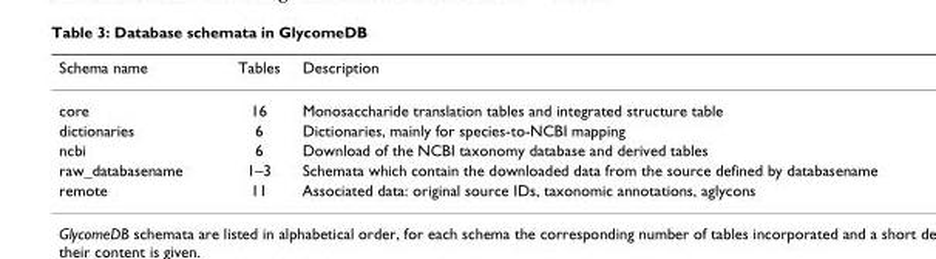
<table><thead><tr><td>Schema name</td><td>Tables</td><td>Description</td></tr></thead><tbody><tr><td>core</td><td>16</td><td>Monosaccharide translation tables and integrated structure table</td></tr><tr><td>dictionaries</td><td>6</td><td>Dictionaries, mainly for species-to-NCBI mapping</td></tr><tr><td>ncbi</td><td>6</td><td>Download of the NCBI taxonomy database and derived tables</td></tr><tr><td>raw_databasename</td><td>1–3</td><td>Schemata which contain the downloaded data from the source defined by databasename</td></tr><tr><td>remote</td><td>11</td><td>Associated data: original source IDs, taxonomic annotations, aglycons</td></tr></tbody></table>